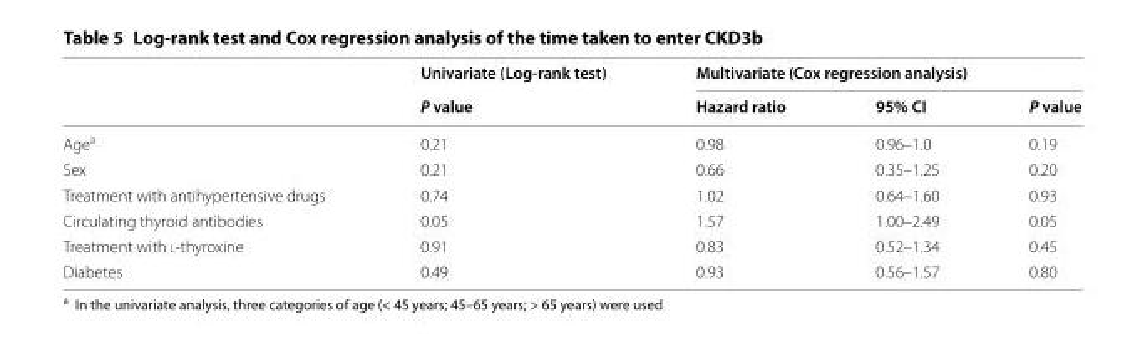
<table><thead><tr><td rowspan="2"></td><td rowspan="2">Univariate (Log-rank test) P value</td><td colspan="3">Multivariate (Cox regression analysis)</td></tr><tr><td>Hazard ratio</td><td>95% CI</td><td>P value</td></tr></thead><tbody><tr><td>Age<sup>a</sup></td><td>0.21</td><td>0.98</td><td>0.96–1.0</td><td>0.19</td></tr><tr><td>Sex</td><td>0.21</td><td>0.66</td><td>0.35–1.25</td><td>0.20</td></tr><tr><td>Treatment with antihypertensive drugs</td><td>0.74</td><td>1.02</td><td>0.64–1.60</td><td>0.93</td></tr><tr><td>Circulating thyroid antibodies</td><td>0.05</td><td>1.57</td><td>1.00–2.49</td><td>0.05</td></tr><tr><td>Treatment with l-thyroxine</td><td>0.91</td><td>0.83</td><td>0.52–1.34</td><td>0.45</td></tr><tr><td>Diabetes</td><td>0.49</td><td>0.93</td><td>0.56–1.57</td><td>0.80</td></tr></tbody></table>